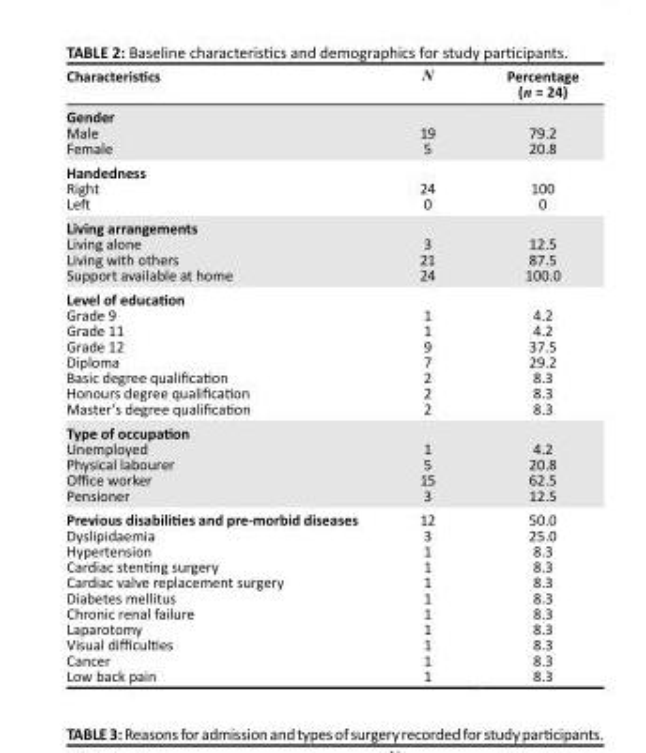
<table><thead><tr><td>Characteristics</td><td>N</td><td>Percentage (n = 24)</td></tr></thead><tbody><tr><td>Gender Male Female</td><td>19 5</td><td>79.2 20.8</td></tr><tr><td>Handedness Right Left</td><td>24 0</td><td>100 0</td></tr><tr><td>Living arrangements Living alone Living with others Support available at home</td><td>3 21 24</td><td>12.5 87.5 100.0</td></tr><tr><td>Level of education Grade 9 Grade 11 Grade 12 Diploma Basic degree qualification Honours degree qualification Master’s degree qualification</td><td>1 1 9 7 2 2 2</td><td>4.2 4.2 37.5 29.2 8.3 8.3 8.3</td></tr><tr><td>Type of occupation Unemployed Physical labourer Office worker Pensioner</td><td>1 5 15 3</td><td>4.2 20.8 62.5 12.5</td></tr><tr><td>Previous disabilities and pre-morbid diseases Dyslipidaemia Hypertension Cardiac stenting surgery Cardiac valve replacement surgery Diabetes mellitus Chronic renal failure Laparotomy Visual difficulties Cancer Low back pain</td><td>12 3 1 1 1 1 1 1 1 1 1</td><td>50.0 25.0 8.3 8.3 8.3 8.3 8.3 8.3 8.3 8.3 8.3</td></tr></tbody></table>